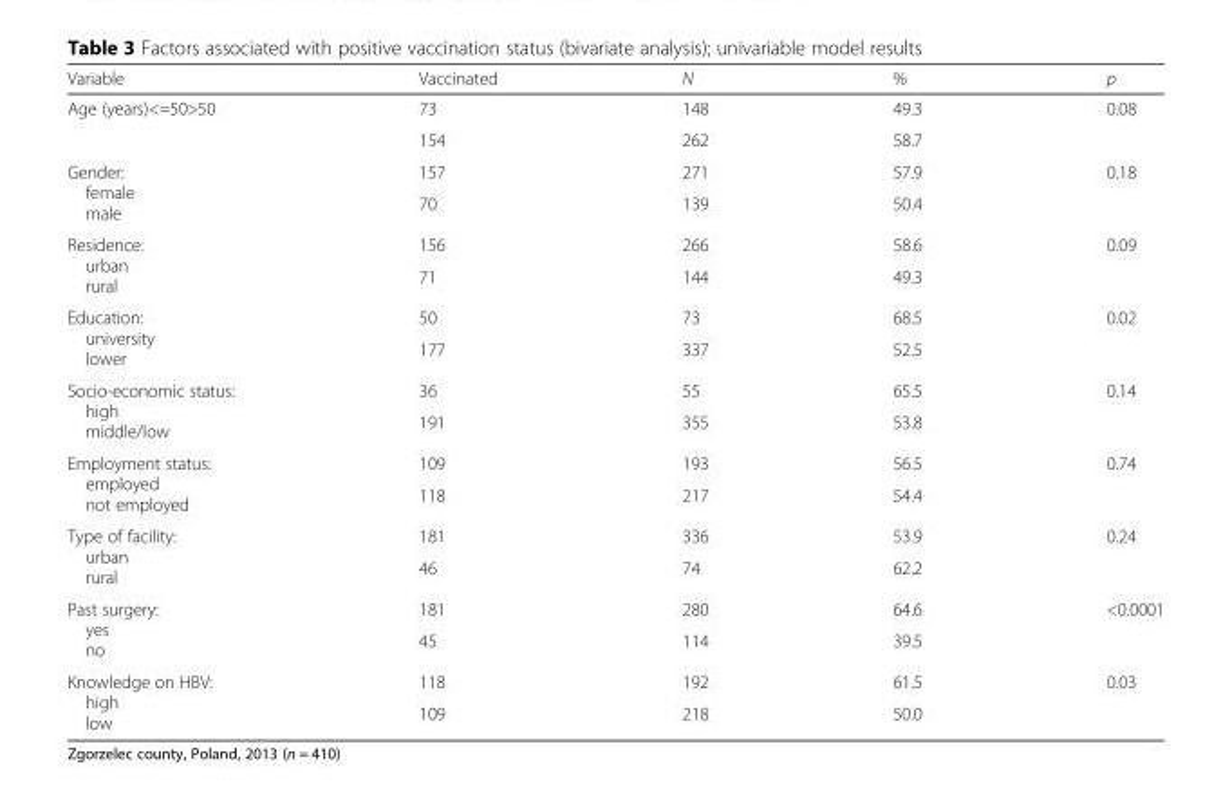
<table><thead><tr><td>Variable</td><td>Vaccinated</td><td>N</td><td>%</td><td>p</td></tr></thead><tbody><tr><td rowspan="2">Age (years)&lt;=50&gt;50</td><td>73</td><td>148</td><td>49.3</td><td rowspan="2">0.08</td></tr><tr><td>154</td><td>262</td><td>58.7</td></tr><tr><td rowspan="2">Gender: female male</td><td>157</td><td>271</td><td>57.9</td><td rowspan="2">0.18</td></tr><tr><td>70</td><td>139</td><td>50.4</td></tr><tr><td rowspan="2">Residence: urban rural</td><td>156</td><td>266</td><td>58.6</td><td rowspan="2">0.09</td></tr><tr><td>71</td><td>144</td><td>49.3</td></tr><tr><td rowspan="2">Education: university lower</td><td>50</td><td>73</td><td>68.5</td><td rowspan="2">0.02</td></tr><tr><td>177</td><td>337</td><td>52.5</td></tr><tr><td rowspan="2">Socio-economic status: high middle/low</td><td>36</td><td>55</td><td>65.5</td><td rowspan="2">0.14</td></tr><tr><td>191</td><td>355</td><td>53.8</td></tr><tr><td rowspan="2">Employment status: employed not employed</td><td>109</td><td>193</td><td>56.5</td><td rowspan="2">0.74</td></tr><tr><td>118</td><td>217</td><td>54.4</td></tr><tr><td rowspan="2">Type of facility: urban rural</td><td>181</td><td>336</td><td>53.9</td><td rowspan="2">0.24</td></tr><tr><td>46</td><td>74</td><td>62.2</td></tr><tr><td rowspan="2">Past surgery: yes no</td><td>181</td><td>280</td><td>64.6</td><td rowspan="2">&lt;0.0001</td></tr><tr><td>45</td><td>114</td><td>39.5</td></tr><tr><td rowspan="2">Knowledge on HBV: high low</td><td>118</td><td>192</td><td>61.5</td><td rowspan="2">0.03</td></tr><tr><td>109</td><td>218</td><td>50.0</td></tr></tbody></table>